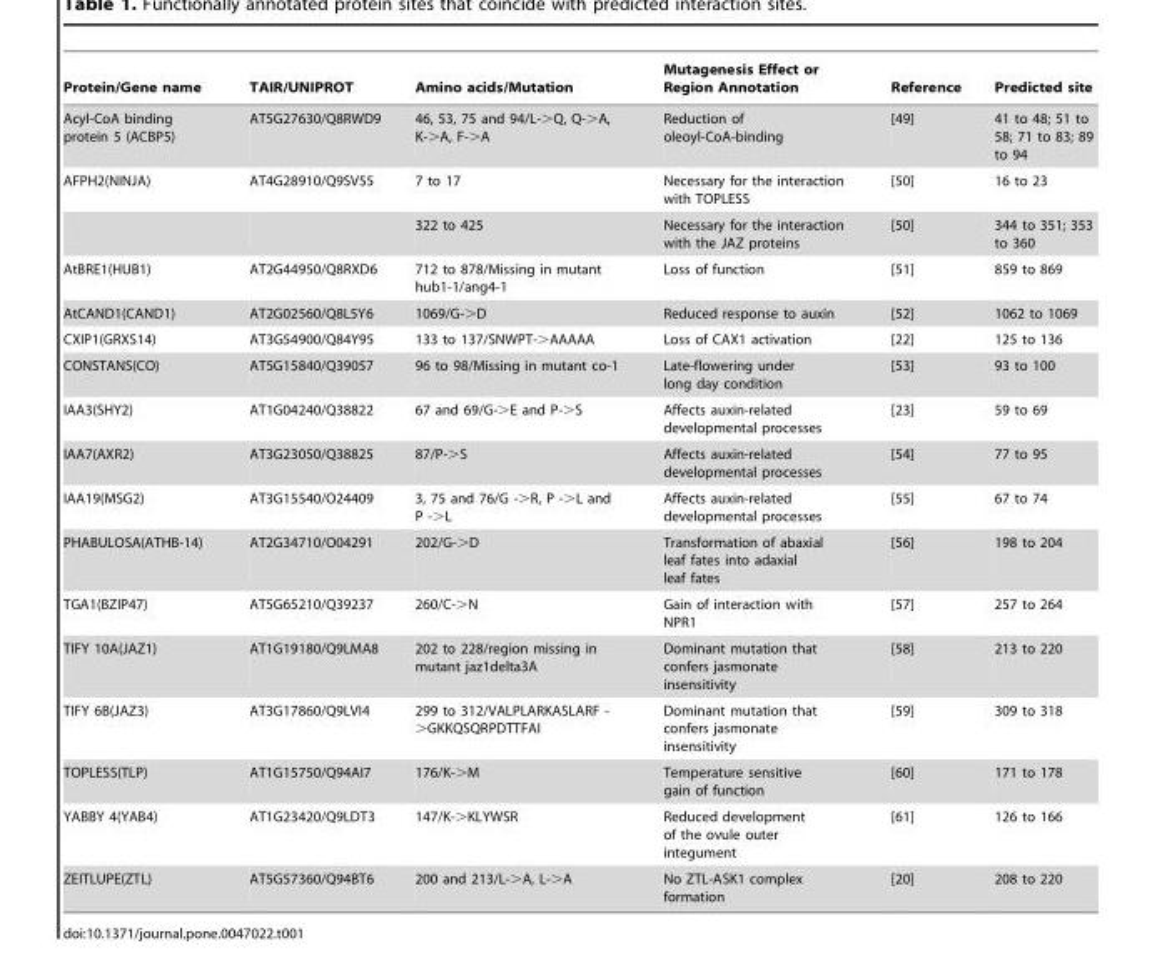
<table><thead><tr><td>Protein/Gene name</td><td>TAIR/UNIPROT</td><td>Amino acids/Mutation</td><td>Mutagenesis Effect or Region Annotation</td><td>Reference</td><td>Predicted site</td></tr></thead><tbody><tr><td>Acyl-CoA binding protein 5 (ACBP5)</td><td>AT5G27630/Q8RWD9</td><td>46, 53, 75 and 94/L-&gt;Q, Q-&gt;A, K-&gt;A, F-&gt;A</td><td>Reduction of oleoyl-CoA-binding</td><td>[49]</td><td>41 to 48; 51 to 58; 71 to 83; 89 to 94</td></tr><tr><td rowspan="2">AFPH2(NINJA)</td><td>AT4G28910/Q9SV55</td><td>7 to 17</td><td>Necessary for the interaction with TOPLESS</td><td>[50]</td><td>16 to 23</td></tr><tr><td></td><td>322 to 425</td><td>Necessary for the interaction with the JAZ proteins</td><td>[50]</td><td>344 to 351; 353 to 360</td></tr><tr><td>AtBRE1(HUB1)</td><td>AT2G44950/Q8RXD6</td><td>712 to 878/Missing in mutant hub1-1/ang4-1</td><td>Loss of function</td><td>[51]</td><td>859 to 869</td></tr><tr><td>AtCAND1(CAND1)</td><td>AT2G02560/Q8L5Y6</td><td>1069/G-&gt;D</td><td>Reduced response to auxin</td><td>[52]</td><td>1062 to 1069</td></tr><tr><td>CXIP1(GRXS14)</td><td>AT3G54900/Q84Y95</td><td>133 to 137/SNWPT-&gt;AAAAA</td><td>Loss of CAX1 activation</td><td>[22]</td><td>125 to 136</td></tr><tr><td>CONSTANS(CO)</td><td>AT5G15840/Q39057</td><td>96 to 98/Missing in mutant co-1</td><td>Late-flowering under long day condition</td><td>[53]</td><td>93 to 100</td></tr><tr><td>IAA3(SHY2)</td><td>AT1G04240/Q38822</td><td>67 and 69/G-&gt;E and P-&gt;S</td><td>Affects auxin-related developmental processes</td><td>[23]</td><td>59 to 69</td></tr><tr><td>IAA7(AXR2)</td><td>AT3G23050/Q38825</td><td>87/P-&gt;S</td><td>Affects auxin-related developmental processes</td><td>[54]</td><td>77 to 95</td></tr><tr><td>IAA19(MSG2)</td><td>AT3G15540/O24409</td><td>3, 75 and 76/G -&gt;R, P -&gt;L and P -&gt;L</td><td>Affects auxin-related developmental processes</td><td>[55]</td><td>67 to 74</td></tr><tr><td>PHABULOSA(ATHB-14)</td><td>AT2G34710/O04291</td><td>202/G-&gt;D</td><td>Transformation of abaxial leaf fates into adaxial leaf fates</td><td>[56]</td><td>198 to 204</td></tr><tr><td>TGA1(BZIP47)</td><td>AT5G65210/Q39237</td><td>260/C-&gt;N</td><td>Gain of interaction with NPR1</td><td>[57]</td><td>257 to 264</td></tr><tr><td>TIFY 10A(JAZ1)</td><td>AT1G19180/Q9LMA8</td><td>202 to 228/region missing in mutant jaz1delta3A</td><td>Dominant mutation that confers jasmonate insensitivity</td><td>[58]</td><td>213 to 220</td></tr><tr><td>TIFY 6B(JAZ3)</td><td>AT3G17860/Q9LVI4</td><td>299 to 312/VALPLARKASLARF - &gt;GKKQSQRPDTTFAI</td><td>Dominant mutation that confers jasmonate insensitivity</td><td>[59]</td><td>309 to 318</td></tr><tr><td>TOPLESS(TLP)</td><td>AT1G15750/Q94AI7</td><td>176/K-&gt;M</td><td>Temperature sensitive gain of function</td><td>[60]</td><td>171 to 178</td></tr><tr><td>YABBY 4(YAB4)</td><td>AT1G23420/Q9LDT3</td><td>147/K-&gt;KLYWSR</td><td>Reduced development of the ovule outer integument</td><td>[61]</td><td>126 to 166</td></tr><tr><td>ZEITLUPE(ZTL)</td><td>AT5G57360/Q94BT6</td><td>200 and 213/L-&gt;A, L-&gt;A</td><td>No ZTL-ASK1 complex formation</td><td>[20]</td><td>208 to 220</td></tr></tbody></table>